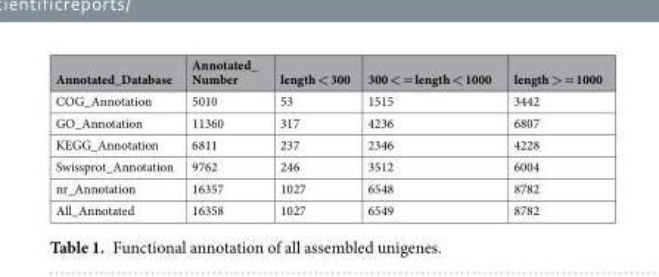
<table><thead><tr><td>Annotated_Database</td><td>Annotated_ Number</td><td>length &lt; 300</td><td>300 &lt; = length &lt; 1000</td><td>length &gt; = 1000</td></tr></thead><tbody><tr><td>COG_Annotation</td><td>5010</td><td>53</td><td>1515</td><td>3442</td></tr><tr><td>GO_Annotation</td><td>11360</td><td>317</td><td>4236</td><td>6807</td></tr><tr><td>KEGG_Annotation</td><td>6811</td><td>237</td><td>2346</td><td>4228</td></tr><tr><td>Swissprot_Annotation</td><td>9762</td><td>246</td><td>3512</td><td>6004</td></tr><tr><td>nr_Annotation</td><td>16357</td><td>1027</td><td>6548</td><td>8782</td></tr><tr><td>All_Annotated</td><td>16358</td><td>1027</td><td>6549</td><td>8782</td></tr></tbody></table>